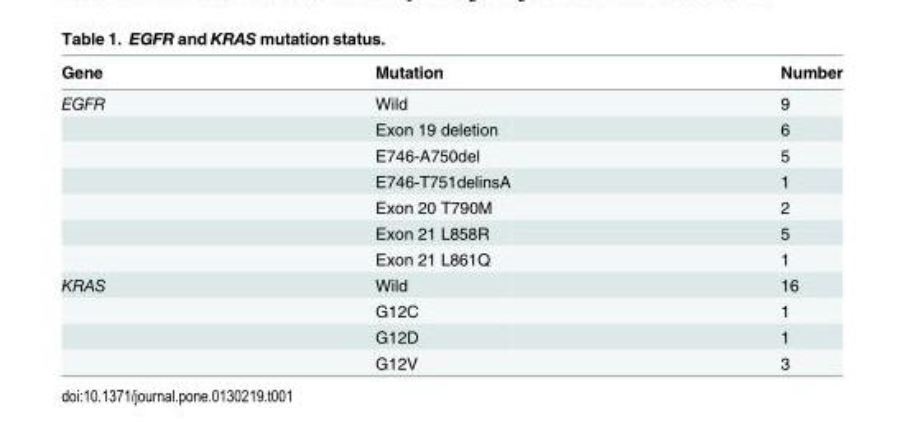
<table><thead><tr><td>Gene</td><td>Mutation</td><td>Number</td></tr></thead><tbody><tr><td rowspan="7">EGFR</td><td>Wild</td><td>9</td></tr><tr><td>Exon 19 deletion</td><td>6</td></tr><tr><td>E746-A750del</td><td>5</td></tr><tr><td>E746-T751delinsA</td><td>1</td></tr><tr><td>Exon 20 T790M</td><td>2</td></tr><tr><td>Exon 21 L858R</td><td>5</td></tr><tr><td>Exon 21 L861Q</td><td>1</td></tr><tr><td rowspan="4">KRAS</td><td>Wild</td><td>16</td></tr><tr><td>G12C</td><td>1</td></tr><tr><td>G12D</td><td>1</td></tr><tr><td>G12V</td><td>3</td></tr></tbody></table>